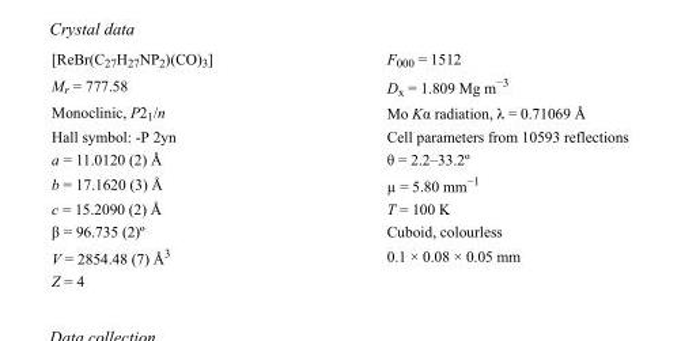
<table><tbody><tr><td>[ReBr(C<sub>27</sub>H<sub>27</sub>NP<sub>2</sub>)(CO)<sub>3</sub>]</td><td>F000 = 1512</td></tr><tr><td>M<sub>r</sub> = 777.58</td><td>D<sub>x</sub> = 1.809 Mg m<sup>−3</sup></td></tr><tr><td>Monoclinic, P2<sub>1</sub>/n</td><td>Mo Kα radiation, λ = 0.71069 Å</td></tr><tr><td>Hall symbol: -P 2yn</td><td>Cell parameters from 10593 reflections</td></tr><tr><td>a = 11.0120 (2) Å</td><td>θ = 2.2–33.2º</td></tr><tr><td>b = 17.1620 (3) Å</td><td>µ = 5.80 mm<sup>−1</sup></td></tr><tr><td>c = 15.2090 (2) Å</td><td>T = 100 K</td></tr><tr><td>β = 96.735 (2)º</td><td>Cuboid, colourless</td></tr><tr><td>V = 2854.48 (7) Å<sup>3</sup></td><td>0.1 × 0.08 × 0.05 mm</td></tr><tr><td>Z = 4</td><td></td></tr></tbody></table>